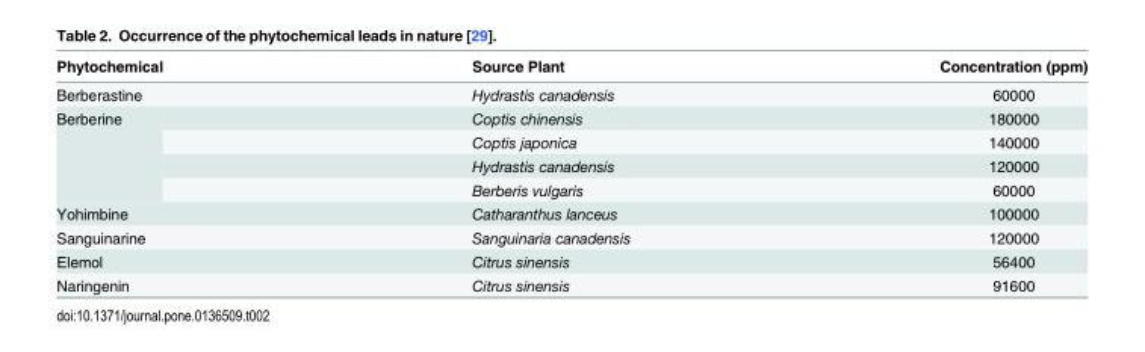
<table><thead><tr><td>Phytochemical</td><td>Source Plant</td><td>Concentration (ppm)</td></tr></thead><tbody><tr><td>Berberastine</td><td>Hydrastis canadensis</td><td>60000</td></tr><tr><td rowspan="4">Berberine</td><td>Coptis chinensis</td><td>180000</td></tr><tr><td>Coptis japonica</td><td>140000</td></tr><tr><td>Hydrastis canadensis</td><td>120000</td></tr><tr><td>Berberis vulgaris</td><td>60000</td></tr><tr><td>Yohimbine</td><td>Catharanthus lanceus</td><td>100000</td></tr><tr><td>Sanguinarine</td><td>Sanguinaria canadensis</td><td>120000</td></tr><tr><td>Elemol</td><td>Citrus sinensis</td><td>56400</td></tr><tr><td>Naringenin</td><td>Citrus sinensis</td><td>91600</td></tr></tbody></table>